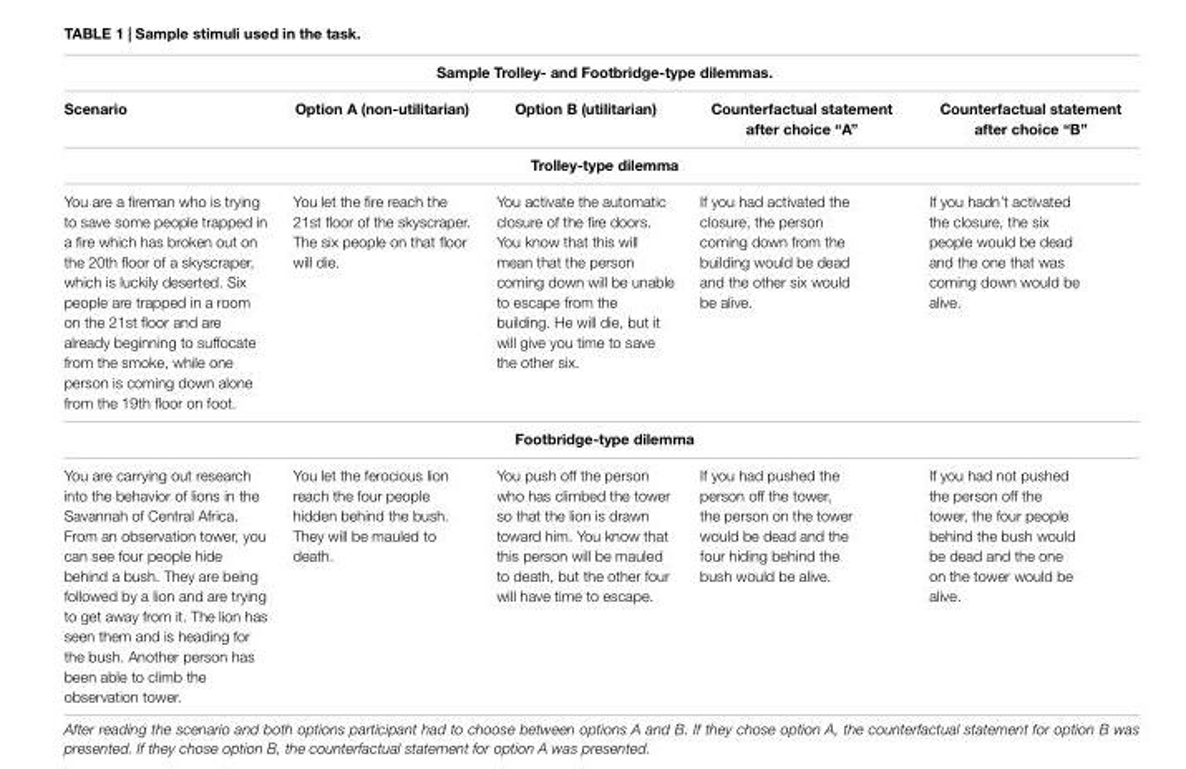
<table><thead><tr><td colspan="5">Sample Trolley- and Footbridge-type dilemmas.</td></tr><tr><td>Scenario</td><td>Option A (non-utilitarian)</td><td>Option B (utilitarian)</td><td>Counterfactual statement after choice “A”</td><td>Counterfactual statement after choice “B”</td></tr><tr><td colspan="5">Trolley-type dilemma</td></tr></thead><tbody><tr><td>You are a fireman who is trying to save some people trapped in a fire which has broken out on the 20th floor of a skyscraper, which is luckily deserted. Six people are trapped in a room on the 21st floor and are already beginning to suffocate from the smoke, while one person is coming down alone from the 19th floor on foot.</td><td>You let the fire reach the 21st floor of the skyscraper. The six people on that floor will die.</td><td>You activate the automatic closure of the fire doors. You know that this will mean that the person coming down will be unable to escape from the building. He will die, but it will give you time to save the other six.</td><td>If you had activated the closure, the person coming down from the building would be dead and the other six would be alive.</td><td>If you hadn’t activated the closure, the six people would be dead and the one that was coming down would be alive.</td></tr><tr><td colspan="5">Footbridge-type dilemma</td></tr><tr><td>You are carrying out research into the behavior of lions in the Savannah of Central Africa. From an observation tower, you can see four people hide behind a bush. They are being followed by a lion and are trying to get away from it. The lion has seen them and is heading for the bush. Another person has been able to climb the observation tower.</td><td>You let the ferocious lion reach the four people hidden behind the bush. They will be mauled to death.</td><td>You push off the person who has climbed the tower so that the lion is drawn toward him. You know that this person will be mauled to death, but the other four will have time to escape.</td><td>If you had pushed the person off the tower, the person on the tower would be dead and the four hiding behind the bush would be alive.</td><td>If you had not pushed the person off the tower, the four people behind the bush would be dead and the one on the tower would be alive.</td></tr></tbody></table>